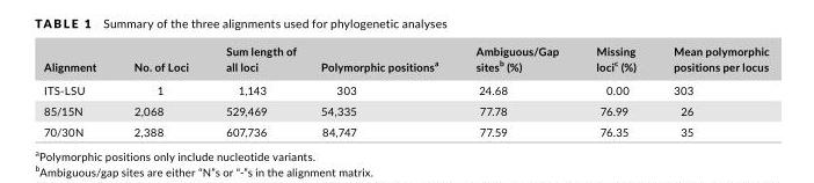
<table><thead><tr><td>Alignment</td><td>No. of Loci</td><td>Sum length of all loci</td><td>Polymorphic positions<sup>a</sup></td><td>Ambiguous/Gap sites<sup>b</sup> (%)</td><td>Missing loci<sup>c</sup> (%)</td><td>Mean polymorphic positions per locus</td></tr></thead><tbody><tr><td>ITS- LSU</td><td>1</td><td>1,143</td><td>303</td><td>24.68</td><td>0.00</td><td>303</td></tr><tr><td>85/15N</td><td>2,068</td><td>529,469</td><td>54,335</td><td>77.78</td><td>76.99</td><td>26</td></tr><tr><td>70/30N</td><td>2,388</td><td>607,736</td><td>84,747</td><td>77.59</td><td>76.35</td><td>35</td></tr></tbody></table>